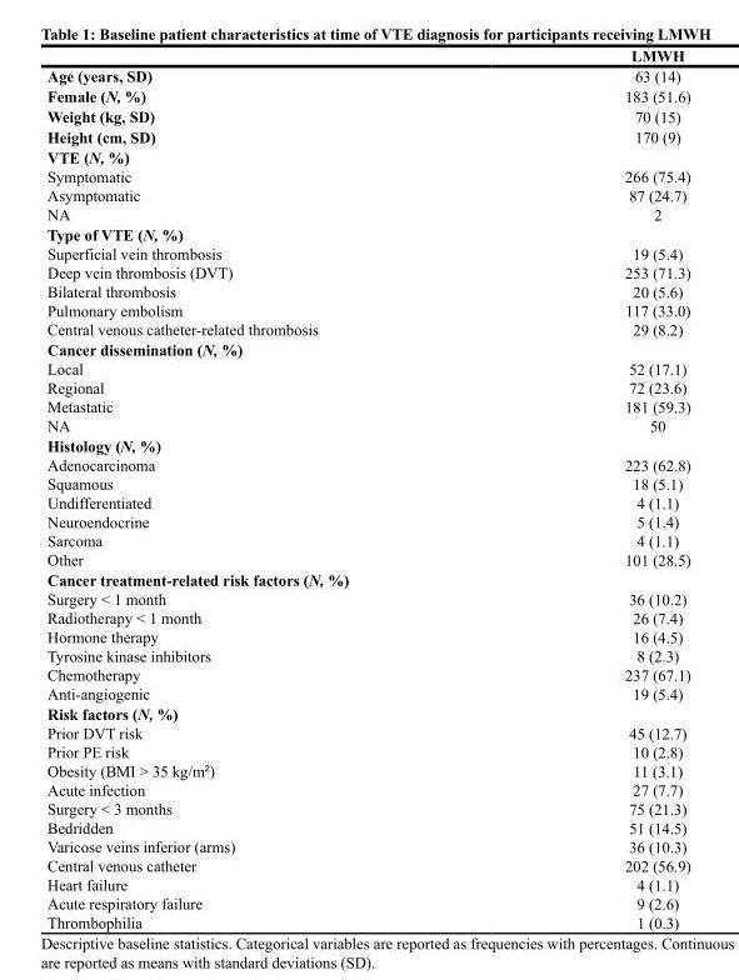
<table><thead><tr><td></td><td>LMWH</td></tr></thead><tbody><tr><td>Age (years, SD)</td><td>63 (14)</td></tr><tr><td>Female (N, %)</td><td>183 (51.6)</td></tr><tr><td>Weight (kg, SD)</td><td>70 (15)</td></tr><tr><td>Height (cm, SD)</td><td>170 (9)</td></tr><tr><td>VTE (N, %) Symptomatic Asymptomatic NA</td><td>266 (75.4) 87 (24.7) 2</td></tr><tr><td>Type of VTE (N, %) Superficial vein thrombosis Deep vein thrombosis (DVT) Bilateral thrombosis Pulmonary embolism Central venous catheter-related thrombosis</td><td>19 (5.4) 253 (71.3) 20 (5.6) 117 (33.0) 29 (8.2)</td></tr><tr><td>Cancer dissemination (N, %) Local Regional Metastatic NA</td><td>52 (17.1) 72 (23.6) 181 (59.3) 50</td></tr><tr><td>Histology (N, %) Adenocarcinoma Squamous Undifferentiated Neuroendocrine Sarcoma Other</td><td>223 (62.8) 18 (5.1) 4 (1.1) 5 (1.4) 4 (1.1) 101 (28.5)</td></tr><tr><td>Cancer treatment-related risk factors (N, %) Surgery &lt; 1 month Radiotherapy &lt; 1 month Hormone therapy Tyrosine kinase inhibitors Chemotherapy Anti-angiogenic</td><td>36 (10.2) 26 (7.4) 16 (4.5) 8 (2.3) 237 (67.1) 19 (5.4)</td></tr><tr><td>Risk factors (N, %) Prior DVT risk Prior PE risk Obesity (BMI &gt; 35 kg/m<sup>2</sup>) Acute infection Surgery &lt; 3 months Bedridden Varicose veins inferior (arms) Central venous catheter Heart failure Acute respiratory failure Thrombophilia</td><td>45 (12.7) 10 (2.8) 11 (3.1) 27 (7.7) 75 (21.3) 51 (14.5) 36 (10.3) 202 (56.9) 4 (1.1) 9 (2.6) 1 (0.3)</td></tr></tbody></table>